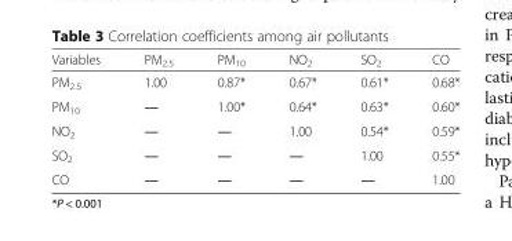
<table><thead><tr><td>Variables</td><td>PM<sub>2.5</sub></td><td>PM<sub>10</sub></td><td>NO<sub>2</sub></td><td>SO<sub>2</sub></td><td>CO</td></tr></thead><tbody><tr><td>PM<sub>2.5</sub></td><td>1.00</td><td>0.87*</td><td>0.67*</td><td>0.61*</td><td>0.68*</td></tr><tr><td>PM<sub>10</sub></td><td>―</td><td>1.00*</td><td>0.64*</td><td>0.63*</td><td>0.60*</td></tr><tr><td>NO<sub>2</sub></td><td>―</td><td>―</td><td>1.00</td><td>0.54*</td><td>0.59*</td></tr><tr><td>SO<sub>2</sub></td><td>―</td><td>―</td><td>―</td><td>1.00</td><td>0.55*</td></tr><tr><td>CO</td><td>―</td><td>―</td><td>―</td><td>―</td><td>1.00</td></tr></tbody></table>